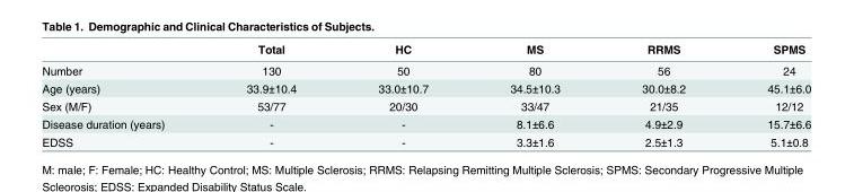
<table><thead><tr><td></td><td>Total</td><td>HC</td><td>MS</td><td>RRMS</td><td>SPMS</td></tr></thead><tbody><tr><td>Number</td><td>130</td><td>50</td><td>80</td><td>56</td><td>24</td></tr><tr><td>Age (years)</td><td>33.9±10.4</td><td>33.0±10.7</td><td>34.5±10.3</td><td>30.0±8.2</td><td>45.1±6.0</td></tr><tr><td>Sex (M/F)</td><td>53/77</td><td>20/30</td><td>33/47</td><td>21/35</td><td>12/12</td></tr><tr><td>Disease duration (years)</td><td>-</td><td>-</td><td>8.1±6.6</td><td>4.9±2.9</td><td>15.7±6.6</td></tr><tr><td>EDSS</td><td>-</td><td>-</td><td>3.3±1.6</td><td>2.5±1.3</td><td>5.1±0.8</td></tr></tbody></table>